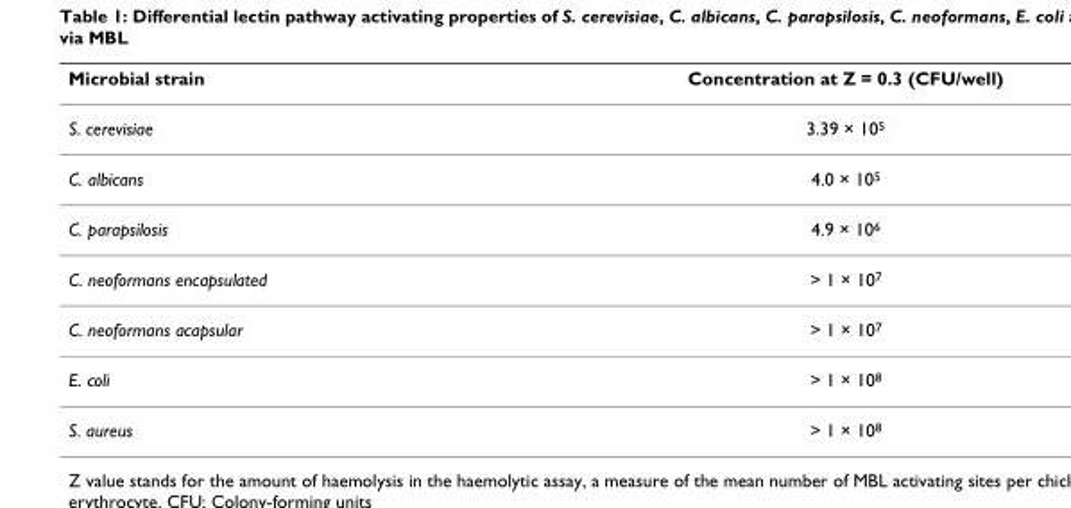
<table><thead><tr><td>Microbial strain</td><td>Concentration at Z = 0.3 (CFU/well)</td></tr></thead><tbody><tr><td>S. cerevisiae</td><td>3.39 × 10<sup>5</sup></td></tr><tr><td>C. albicans</td><td>4.0 × 10<sup>5</sup></td></tr><tr><td>C. parapsilosis</td><td>4.9 × 10<sup>6</sup></td></tr><tr><td>C. neoformans encapsulated</td><td>&gt; 1 × 10<sup>7</sup></td></tr><tr><td>C. neoformans acapsular</td><td>&gt; 1 × 10<sup>7</sup></td></tr><tr><td>E. coli</td><td>&gt; 1 × 10<sup>8</sup></td></tr><tr><td>S. aureus</td><td>&gt; 1 × 10<sup>8</sup></td></tr></tbody></table>